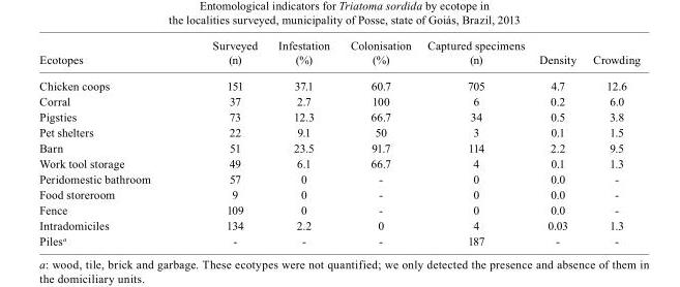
<table><thead><tr><td>Ecotopes</td><td>Surveyed (n)</td><td>Infestation (%)</td><td>Colonisation (%)</td><td>Captured specimens (n)</td><td>Density</td><td>Crowding</td></tr></thead><tbody><tr><td>Chicken coops</td><td>151</td><td>37.1</td><td>60.7</td><td>705</td><td>4.7</td><td>12.6</td></tr><tr><td>Corral</td><td>37</td><td>2.7</td><td>100</td><td>6</td><td>0.2</td><td>6.0</td></tr><tr><td>Pigsties</td><td>73</td><td>12.3</td><td>66.7</td><td>34</td><td>0.5</td><td>3.8</td></tr><tr><td>Pet shelters</td><td>22</td><td>9.1</td><td>50</td><td>3</td><td>0.1</td><td>1.5</td></tr><tr><td>Barn</td><td>51</td><td>23.5</td><td>91.7</td><td>114</td><td>2.2</td><td>9.5</td></tr><tr><td>Work tool storage</td><td>49</td><td>6.1</td><td>66.7</td><td>4</td><td>0.1</td><td>1.3</td></tr><tr><td>Peridomestic bathroom</td><td>57</td><td>0</td><td>-</td><td>0</td><td>0.0</td><td>-</td></tr><tr><td>Food storeroom</td><td>9</td><td>0</td><td>-</td><td>0</td><td>0.0</td><td>-</td></tr><tr><td>Fence</td><td>109</td><td>0</td><td>-</td><td>0</td><td>0.0</td><td>-</td></tr><tr><td>Intradomiciles</td><td>134</td><td>2.2</td><td>0</td><td>4</td><td>0.03</td><td>1.3</td></tr><tr><td>Piles<sup>a</sup></td><td>-</td><td>-</td><td>-</td><td>187</td><td>-</td><td>-</td></tr></tbody></table>